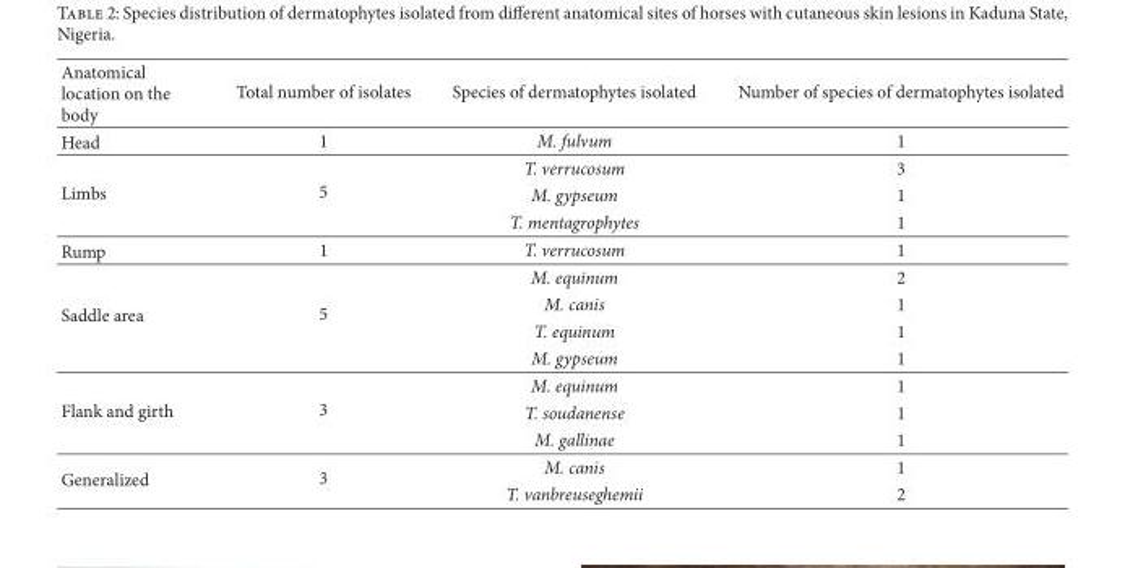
<table><thead><tr><td>Anatomical location on the body</td><td>Total number of isolates</td><td>Species of dermatophytes isolated</td><td>Number of species of dermatophytes isolated</td></tr></thead><tbody><tr><td>Head</td><td>1</td><td>M. fulvum</td><td>1</td></tr><tr><td rowspan="3">Limbs</td><td rowspan="3">5</td><td>T. verrucosum</td><td>3</td></tr><tr><td>M. gypseum</td><td>1</td></tr><tr><td>T. mentagrophytes</td><td>1</td></tr><tr><td>Rump</td><td>1</td><td>T. verrucosum</td><td>1</td></tr><tr><td rowspan="4">Saddle area</td><td rowspan="4">5</td><td>M. equinum</td><td>2</td></tr><tr><td>M. canis</td><td>1</td></tr><tr><td>T. equinum</td><td>1</td></tr><tr><td>M. gypseum</td><td>1</td></tr><tr><td rowspan="3">Flank and girth</td><td rowspan="3">3</td><td>M. equinum</td><td>1</td></tr><tr><td>T. soudanense</td><td>1</td></tr><tr><td>M. gallinae</td><td>1</td></tr><tr><td rowspan="2">Generalized</td><td rowspan="2">3</td><td>M. canis</td><td>1</td></tr><tr><td>T. vanbreuseghemii</td><td>2</td></tr></tbody></table>